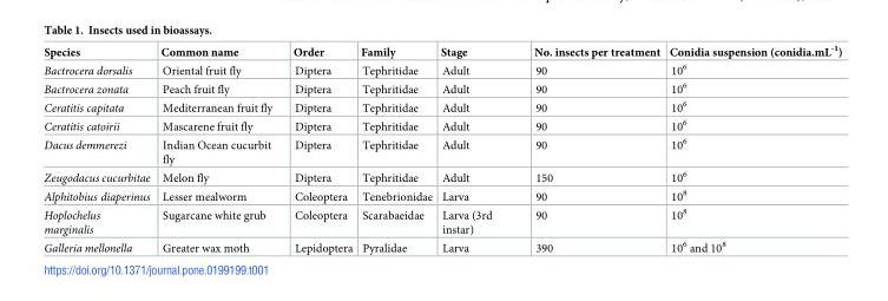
<table><thead><tr><td>Species</td><td>Common name</td><td>Order</td><td>Family</td><td>Stage</td><td>No. insects per treatment</td><td>Conidia suspension (conidia.mL<sup>-1</sup>)</td></tr></thead><tbody><tr><td>Bactrocera dorsalis</td><td>Oriental fruit fly</td><td>Diptera</td><td>Tephritidae</td><td>Adult</td><td>90</td><td>10<sup>6</sup></td></tr><tr><td>Bactrocera zonata</td><td>Peach fruit fly</td><td>Diptera</td><td>Tephritidae</td><td>Adult</td><td>90</td><td>10<sup>6</sup></td></tr><tr><td>Ceratitis capitata</td><td>Mediterranean fruit fly</td><td>Diptera</td><td>Tephritidae</td><td>Adult</td><td>90</td><td>10<sup>6</sup></td></tr><tr><td>Ceratitis catoirii</td><td>Mascarene fruit fly</td><td>Diptera</td><td>Tephritidae</td><td>Adult</td><td>90</td><td>10<sup>6</sup></td></tr><tr><td>Dacus demmerezi</td><td>Indian Ocean cucurbit fly</td><td>Diptera</td><td>Tephritidae</td><td>Adult</td><td>90</td><td>10<sup>6</sup></td></tr><tr><td>Zeugodacus cucurbitae</td><td>Melon fly</td><td>Diptera</td><td>Tephritidae</td><td>Adult</td><td>150</td><td>10<sup>6</sup></td></tr><tr><td>Alphitobius diaperinus</td><td>Lesser mealworm</td><td>Coleoptera</td><td>Tenebrionidae</td><td>Larva</td><td>90</td><td>10<sup>8</sup></td></tr><tr><td>Hoplochelus marginalis</td><td>Sugarcane white grub</td><td>Coleoptera</td><td>Scarabaeidae</td><td>Larva (3rd instar)</td><td>90</td><td>10<sup>8</sup></td></tr><tr><td>Galleria mellonella</td><td>Greater wax moth</td><td>Lepidoptera</td><td>Pyralidae</td><td>Larva</td><td>390</td><td>10<sup>6</sup> and 10<sup>8</sup></td></tr></tbody></table>